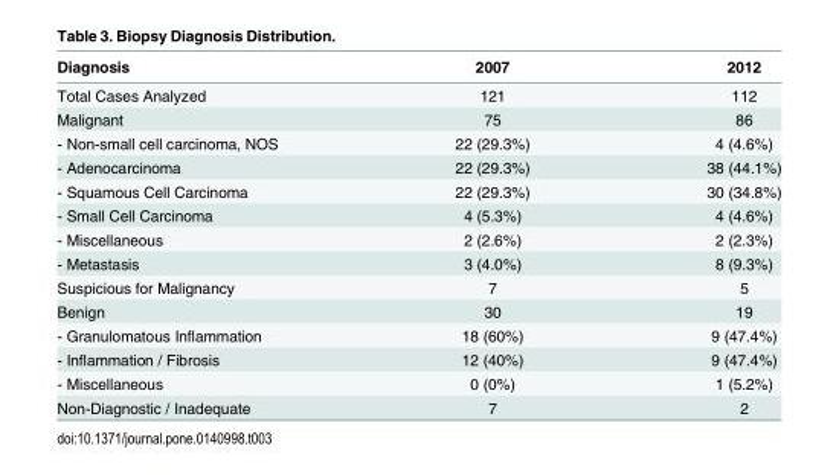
<table><thead><tr><td>Diagnosis</td><td>2007</td><td>2012</td></tr></thead><tbody><tr><td>Total Cases Analyzed</td><td>121</td><td>112</td></tr><tr><td>Malignant</td><td>75</td><td>86</td></tr><tr><td>- Non-small cell carcinoma, NOS</td><td>22 (29.3%)</td><td>4 (4.6%)</td></tr><tr><td>- Adenocarcinoma</td><td>22 (29.3%)</td><td>38 (44.1%)</td></tr><tr><td>- Squamous Cell Carcinoma</td><td>22 (29.3%)</td><td>30 (34.8%)</td></tr><tr><td>- Small Cell Carcinoma</td><td>4 (5.3%)</td><td>4 (4.6%)</td></tr><tr><td>- Miscellaneous</td><td>2 (2.6%)</td><td>2 (2.3%)</td></tr><tr><td>- Metastasis</td><td>3 (4.0%)</td><td>8 (9.3%)</td></tr><tr><td>Suspicious for Malignancy</td><td>7</td><td>5</td></tr><tr><td>Benign</td><td>30</td><td>19</td></tr><tr><td>- Granulomatous Inflammation</td><td>18 (60%)</td><td>9 (47.4%)</td></tr><tr><td>- Inflammation / Fibrosis</td><td>12 (40%)</td><td>9 (47.4%)</td></tr><tr><td>- Miscellaneous</td><td>0 (0%)</td><td>1 (5.2%)</td></tr><tr><td>Non-Diagnostic / Inadequate</td><td>7</td><td>2</td></tr></tbody></table>